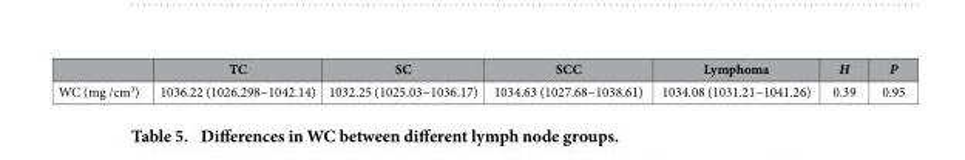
<table><thead><tr><td></td><td>TC</td><td>SC</td><td>SCC</td><td>Lymphoma</td><td>H</td><td>P</td></tr></thead><tbody><tr><td>WC (mg /cm<sup>3</sup>)</td><td>1036.22 (1026.298~1042.14)</td><td>1032.25 (1025.03~1036.17)</td><td>1034.63 (1027.68~1038.61)</td><td>1034.08 (1031.21~1041.26)</td><td>0.39</td><td>0.95</td></tr></tbody></table>